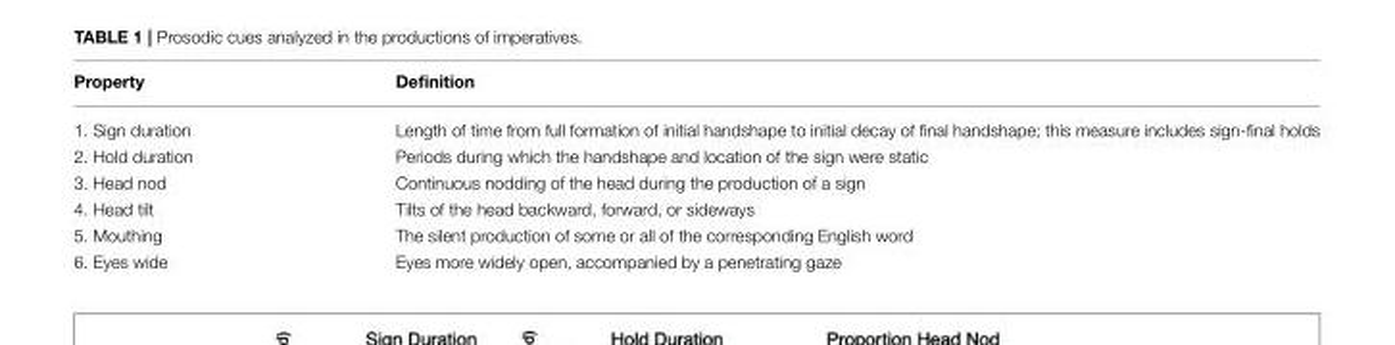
<table><thead><tr><td>Property</td><td>Definition</td></tr></thead><tbody><tr><td>1. Sign duration</td><td>Length of time from full formation of initial handshape to initial decay of final handshape; this measure includes sign-final holds</td></tr><tr><td>2. Hold duration</td><td>Periods during which the handshape and location of the sign were static</td></tr><tr><td>3. Head nod</td><td>Continuous nodding of the head during the production of a sign</td></tr><tr><td>4. Head tilt</td><td>Tilts of the head backward, forward, or sideways</td></tr><tr><td>5. Mouthing</td><td>The silent production of some or all of the corresponding English word</td></tr><tr><td>6. Eyes wide</td><td>Eyes more widely open, accompanied by a penetrating gaze</td></tr></tbody></table>